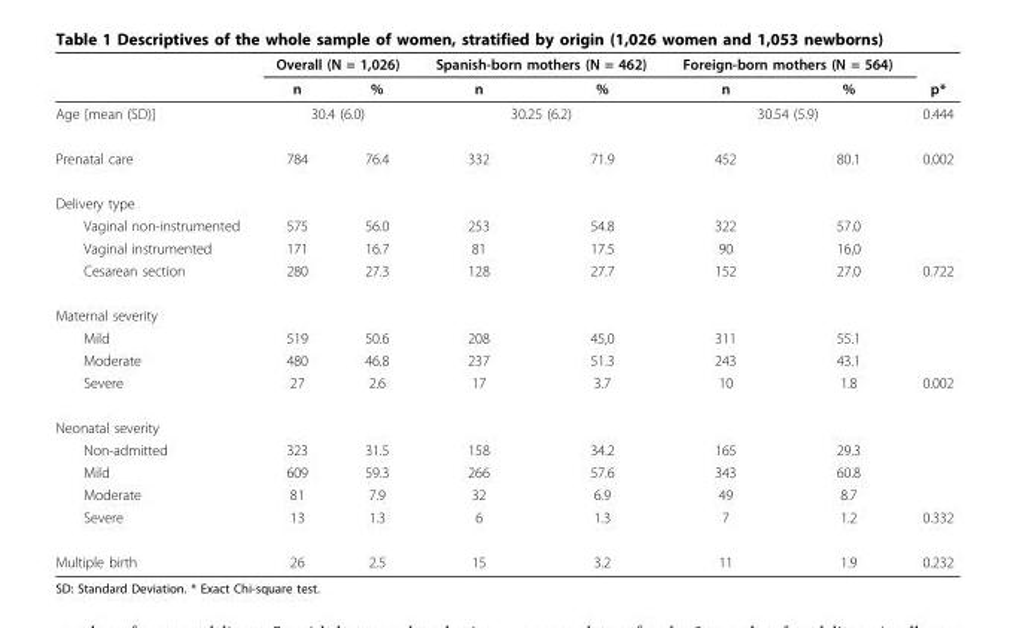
<table><thead><tr><td rowspan="2"></td><td colspan="2">Overall (N = 1,026)</td><td colspan="2">Spanish-born mothers (N = 462)</td><td colspan="2">Foreign-born mothers (N = 564)</td><td rowspan="2">p*</td></tr><tr><td>n</td><td>%</td><td>n</td><td>%</td><td>n</td><td>%</td></tr></thead><tbody><tr><td>Age [mean (SD)]</td><td colspan="2">30.4 (6.0)</td><td colspan="2">30.25 (6.2)</td><td colspan="2">30.54 (5.9)</td><td>0.444</td></tr><tr><td>Prenatal care</td><td>784</td><td>76.4</td><td>332</td><td>71.9</td><td>452</td><td>80.1</td><td>0.002</td></tr><tr><td colspan="8">Delivery type</td></tr><tr><td>Vaginal non-instrumented</td><td>575</td><td>56.0</td><td>253</td><td>54.8</td><td>322</td><td>57.0</td><td></td></tr><tr><td>Vaginal instrumented</td><td>171</td><td>16.7</td><td>81</td><td>17.5</td><td>90</td><td>16,0</td><td></td></tr><tr><td>Cesarean section</td><td>280</td><td>27.3</td><td>128</td><td>27.7</td><td>152</td><td>27.0</td><td>0.722</td></tr><tr><td colspan="8">Maternal severity</td></tr><tr><td>Mild</td><td>519</td><td>50.6</td><td>208</td><td>45,0</td><td>311</td><td>55.1</td><td></td></tr><tr><td>Moderate</td><td>480</td><td>46.8</td><td>237</td><td>51.3</td><td>243</td><td>43.1</td><td></td></tr><tr><td>Severe</td><td>27</td><td>2.6</td><td>17</td><td>3.7</td><td>10</td><td>1.8</td><td>0.002</td></tr><tr><td colspan="8">Neonatal severity</td></tr><tr><td>Non-admitted</td><td>323</td><td>31.5</td><td>158</td><td>34.2</td><td>165</td><td>29.3</td><td></td></tr><tr><td>Mild</td><td>609</td><td>59.3</td><td>266</td><td>57.6</td><td>343</td><td>60.8</td><td></td></tr><tr><td>Moderate</td><td>81</td><td>7.9</td><td>32</td><td>6.9</td><td>49</td><td>8.7</td><td></td></tr><tr><td>Severe</td><td>13</td><td>1.3</td><td>6</td><td>1.3</td><td>7</td><td>1.2</td><td>0.332</td></tr><tr><td>Multiple birth</td><td>26</td><td>2.5</td><td>15</td><td>3.2</td><td>11</td><td>1.9</td><td>0.232</td></tr></tbody></table>